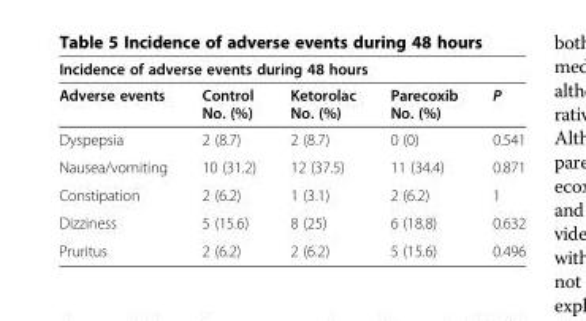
<table><thead><tr><td colspan="5">Incidence of adverse events during 48 hours</td></tr><tr><td>Adverse events</td><td>Control No. (%)</td><td>Ketorolac No. (%)</td><td>Parecoxib No. (%)</td><td>P</td></tr></thead><tbody><tr><td>Dyspepsia</td><td>2 (8.7)</td><td>2 (8.7)</td><td>0 (0)</td><td>0.541</td></tr><tr><td>Nausea/vomiting</td><td>10 (31.2)</td><td>12 (37.5)</td><td>11 (34.4)</td><td>0.871</td></tr><tr><td>Constipation</td><td>2 (6.2)</td><td>1 (3.1)</td><td>2 (6.2)</td><td>1</td></tr><tr><td>Dizziness</td><td>5 (15.6)</td><td>8 (25)</td><td>6 (18.8)</td><td>0.632</td></tr><tr><td>Pruritus</td><td>2 (6.2)</td><td>2 (6.2)</td><td>5 (15.6)</td><td>0.496</td></tr></tbody></table>